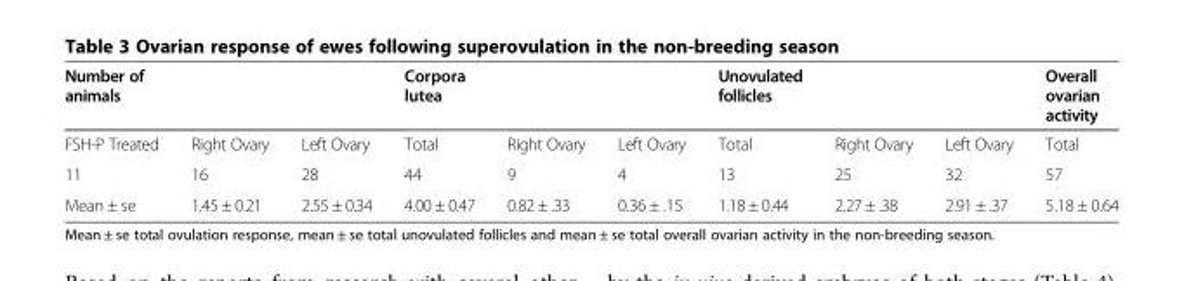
<table><thead><tr><td>Number of animals</td><td></td><td></td><td>Corpora lutea</td><td></td><td></td><td>Unovulated follicles</td><td></td><td></td><td>Overall ovarian activity</td></tr></thead><tbody><tr><td>FSH-P Treated</td><td>Right Ovary</td><td>Left Ovary</td><td>Total</td><td>Right Ovary</td><td>Left Ovary</td><td>Total</td><td>Right Ovary</td><td>Left Ovary</td><td>Total</td></tr><tr><td>11</td><td>16</td><td>28</td><td>44</td><td>9</td><td>4</td><td>13</td><td>25</td><td>32</td><td>57</td></tr><tr><td>Mean ± se</td><td>1.45 ± 0.21</td><td>2.55 ± 0.34</td><td>4.00 ± 0.47</td><td>0.82 ± .33</td><td>0.36 ± .15</td><td>1.18 ± 0.44</td><td>2.27 ± .38</td><td>2.91 ± .37</td><td>5.18 ± 0.64</td></tr></tbody></table>